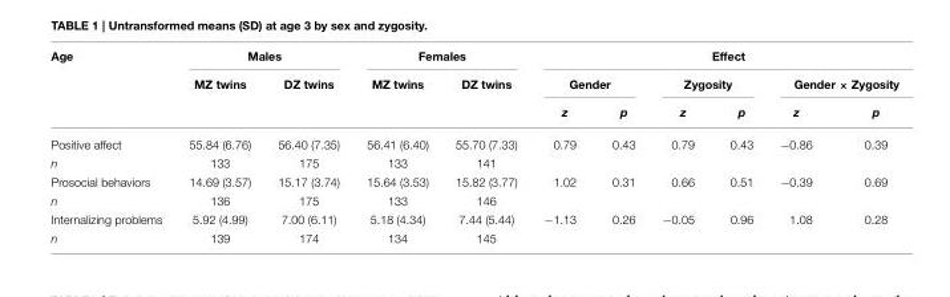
<table><thead><tr><td rowspan="3">Age</td><td colspan="2">Males</td><td colspan="2">Females</td><td colspan="6">Effect</td></tr><tr><td rowspan="2">MZ twins</td><td rowspan="2">DZ twins</td><td rowspan="2">MZ twins</td><td rowspan="2">DZ twins</td><td colspan="2">Gender</td><td colspan="2">Zygosity</td><td colspan="2">Gender × Zygosity</td></tr><tr><td>z</td><td>p</td><td>z</td><td>p</td><td>z</td><td>p</td></tr></thead><tbody><tr><td>Positive affect</td><td>55.84 (6.76)</td><td>56.40 (7.35)</td><td>56.41 (6.40)</td><td>55.70 (7.33)</td><td>0.79</td><td>0.43</td><td>0.79</td><td>0.43</td><td>−0.86</td><td>0.39</td></tr><tr><td>n</td><td>133</td><td>175</td><td>133</td><td>141</td><td></td><td></td><td></td><td></td><td></td><td></td></tr><tr><td>Prosocial behaviors</td><td>14.69 (3.57)</td><td>15.17 (3.74)</td><td>15.64 (3.53)</td><td>15.82 (3.77)</td><td>1.02</td><td>0.31</td><td>0.66</td><td>0.51</td><td>−0.39</td><td>0.69</td></tr><tr><td>n</td><td>136</td><td>175</td><td>133</td><td>146</td><td></td><td></td><td></td><td></td><td></td><td></td></tr><tr><td>Internalizing problems</td><td>5.92 (4.99)</td><td>7.00 (6.11)</td><td>5.18 (4.34)</td><td>7.44 (5.44)</td><td>−1.13</td><td>0.26</td><td>−0.05</td><td>0.96</td><td>1.08</td><td>0.28</td></tr><tr><td>n</td><td>139</td><td>174</td><td>134</td><td>145</td><td></td><td></td><td></td><td></td><td></td><td></td></tr></tbody></table>